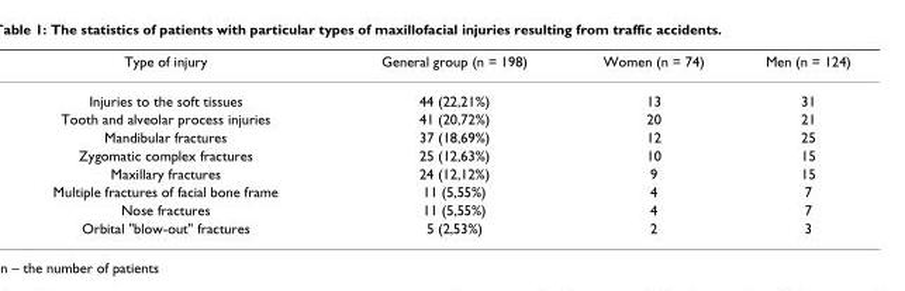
<table><thead><tr><td>Type of injury</td><td>General group (n = 198)</td><td>Women (n = 74)</td><td>Men (n = 124)</td></tr></thead><tbody><tr><td>Injuries to the soft tissues</td><td>44 (22,21%)</td><td>13</td><td>31</td></tr><tr><td>Tooth and alveolar process injuries</td><td>41 (20,72%)</td><td>20</td><td>21</td></tr><tr><td>Mandibular fractures</td><td>37 (18,69%)</td><td>12</td><td>25</td></tr><tr><td>Zygomatic complex fractures</td><td>25 (12,63%)</td><td>10</td><td>15</td></tr><tr><td>Maxillary fractures</td><td>24 (12,12%)</td><td>9</td><td>15</td></tr><tr><td>Multiple fractures of facial bone frame</td><td>11 (5,55%)</td><td>4</td><td>7</td></tr><tr><td>Nose fractures</td><td>11 (5,55%)</td><td>4</td><td>7</td></tr><tr><td>Orbital &quot;blow-out&quot; fractures</td><td>5 (2,53%)</td><td>2</td><td>3</td></tr></tbody></table>